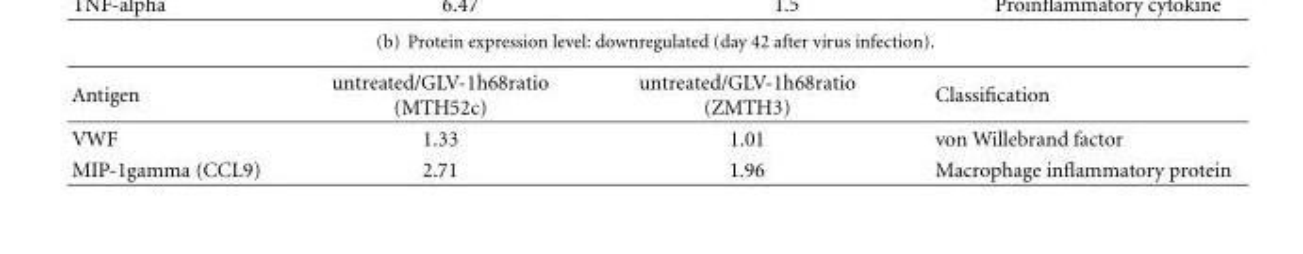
<table><thead><tr><td>Antigen</td><td>untreated/GLV-1h68ratio (MTH52c)</td><td>untreated/GLV-1h68ratio (ZMTH3)</td><td>Classification</td></tr></thead><tbody><tr><td>VWF</td><td>1.33</td><td>1.01</td><td>von Willebrand factor</td></tr><tr><td>MIP-1gamma (CCL9)</td><td>2.71</td><td>1.96</td><td>Macrophage inflammatory protein</td></tr></tbody></table>